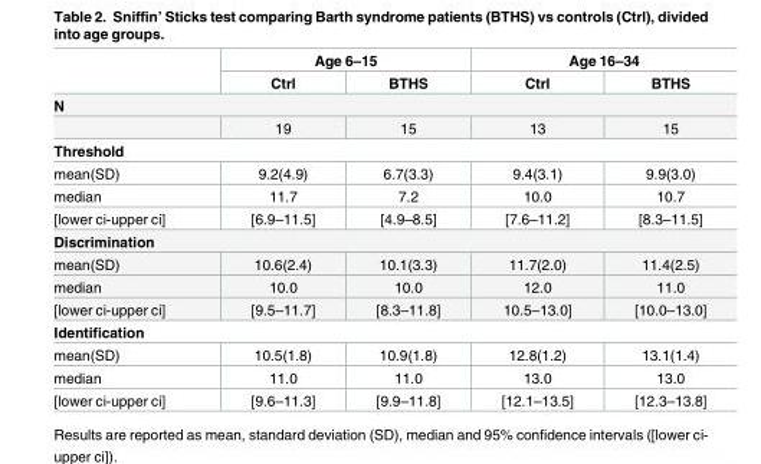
<table><thead><tr><td rowspan="2"></td><td colspan="2">Age 6–15</td><td colspan="2">Age 16–34</td></tr><tr><td>Ctrl</td><td>BTHS</td><td>Ctrl</td><td>BTHS</td></tr></thead><tbody><tr><td colspan="5">N</td></tr><tr><td></td><td>19</td><td>15</td><td>13</td><td>15</td></tr><tr><td colspan="5">Threshold</td></tr><tr><td>mean(SD)</td><td>9.2(4.9)</td><td>6.7(3.3)</td><td>9.4(3.1)</td><td>9.9(3.0)</td></tr><tr><td>median</td><td>11.7</td><td>7.2</td><td>10.0</td><td>10.7</td></tr><tr><td>[lower ci-upper ci]</td><td>[6.9–11.5]</td><td>[4.9–8.5]</td><td>[7.6–11.2]</td><td>[8.3–11.5]</td></tr><tr><td colspan="5">Discrimination</td></tr><tr><td>mean(SD)</td><td>10.6(2.4)</td><td>10.1(3.3)</td><td>11.7(2.0)</td><td>11.4(2.5)</td></tr><tr><td>median</td><td>10.0</td><td>10.0</td><td>12.0</td><td>11.0</td></tr><tr><td>[lower ci-upper ci]</td><td>[9.5–11.7]</td><td>[8.3–11.8]</td><td>10.5–13.0]</td><td>[10.0–13.0]</td></tr><tr><td colspan="5">Identification</td></tr><tr><td>mean(SD)</td><td>10.5(1.8)</td><td>10.9(1.8)</td><td>12.8(1.2)</td><td>13.1(1.4)</td></tr><tr><td>median</td><td>11.0</td><td>11.0</td><td>13.0</td><td>13.0</td></tr><tr><td>[lower ci-upper ci]</td><td>[9.6–11.3]</td><td>[9.9–11.8]</td><td>[12.1–13.5]</td><td>[12.3–13.8]</td></tr></tbody></table>